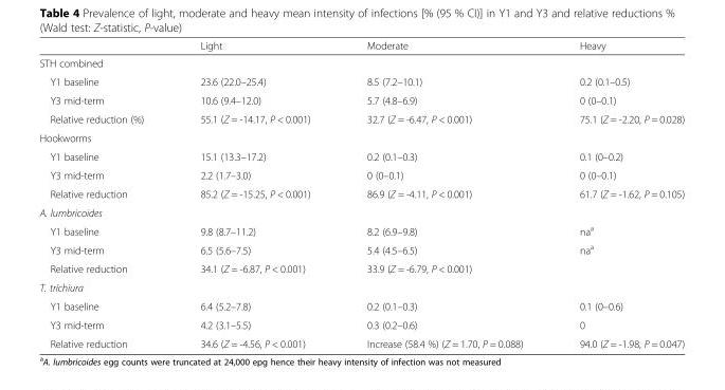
<table><thead><tr><td></td><td>Light</td><td>Moderate</td><td>Heavy</td></tr></thead><tbody><tr><td colspan="4">STH combined</td></tr><tr><td>Y1 baseline</td><td>23.6 (22.0–25.4)</td><td>8.5 (7.2–10.1)</td><td>0.2 (0.1–0.5)</td></tr><tr><td>Y3 mid-term</td><td>10.6 (9.4–12.0)</td><td>5.7 (4.8–6.9)</td><td>0 (0–0.1)</td></tr><tr><td>Relative reduction (%)</td><td>55.1 (Z = -14.17, P &lt; 0.001)</td><td>32.7 (Z = -6.47, P &lt; 0.001)</td><td>75.1 (Z = -2.20, P = 0.028)</td></tr><tr><td colspan="4">Hookworms</td></tr><tr><td>Y1 baseline</td><td>15.1 (13.3–17.2)</td><td>0.2 (0.1–0.3)</td><td>0.1 (0–0.2)</td></tr><tr><td>Y3 mid-term</td><td>2.2 (1.7–3.0)</td><td>0 (0–0.1)</td><td>0 (0–0.1)</td></tr><tr><td>Relative reduction</td><td>85.2 (Z = -15.25, P &lt; 0.001)</td><td>86.9 (Z = -4.11, P &lt; 0.001)</td><td>61.7 (Z = -1.62, P = 0.105)</td></tr><tr><td colspan="4">A. lumbricoides</td></tr><tr><td>Y1 baseline</td><td>9.8 (8.7–11.2)</td><td>8.2 (6.9–9.8)</td><td>na<sup>a</sup></td></tr><tr><td>Y3 mid-term</td><td>6.5 (5.6–7.5)</td><td>5.4 (4.5–6.5)</td><td>na<sup>a</sup></td></tr><tr><td>Relative reduction</td><td>34.1 (Z = -6.87, P &lt; 0.001)</td><td>33.9 (Z = -6.79, P &lt; 0.001)</td><td></td></tr><tr><td colspan="4">T. trichiura</td></tr><tr><td>Y1 baseline</td><td>6.4 (5.2–7.8)</td><td>0.2 (0.1–0.3)</td><td>0.1 (0–0.6)</td></tr><tr><td>Y3 mid-term</td><td>4.2 (3.1–5.5)</td><td>0.3 (0.2–0.6)</td><td>0</td></tr><tr><td>Relative reduction</td><td>34.6 (Z = -4.56, P &lt; 0.001)</td><td>Increase (58.4 %) (Z = 1.70, P = 0.088)</td><td>94.0 (Z = -1.98, P = 0.047)</td></tr></tbody></table>